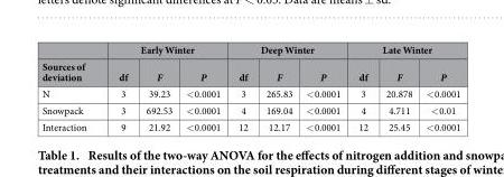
<table><thead><tr><td rowspan="2">Sources of deviation</td><td colspan="3">Early Winter</td><td colspan="3">Deep Winter</td><td colspan="3">Late Winter</td></tr><tr><td>df</td><td>F</td><td>P</td><td>df</td><td>F</td><td>P</td><td>df</td><td>F</td><td>P</td></tr></thead><tbody><tr><td>N</td><td>3</td><td>39.23</td><td>&lt; 0.0001</td><td>3</td><td>265.83</td><td>&lt; 0.0001</td><td>3</td><td>20.878</td><td>&lt; 0.0001</td></tr><tr><td>Snowpack</td><td>3</td><td>692.53</td><td>&lt; 0.0001</td><td>4</td><td>169.04</td><td>&lt; 0.0001</td><td>4</td><td>4.711</td><td>&lt; 0.01</td></tr><tr><td>Interaction</td><td>9</td><td>21.92</td><td>&lt; 0.0001</td><td>12</td><td>12.17</td><td>&lt; 0.0001</td><td>12</td><td>25.45</td><td>&lt; 0.0001</td></tr></tbody></table>